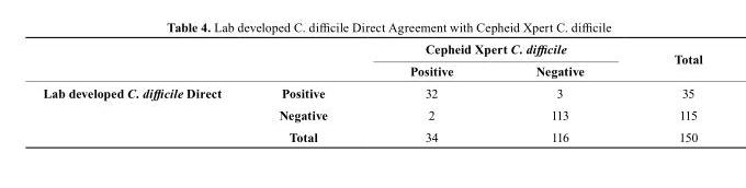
<table><thead><tr><td rowspan="2"></td><td rowspan="2"></td><td colspan="2">cepheid Xpert C. difficile</td><td rowspan="2">total</td></tr><tr><td>Positive</td><td>Negative</td></tr></thead><tbody><tr><td rowspan="3">Lab developed C. difficile Direct</td><td>Positive</td><td>32</td><td>3</td><td>35</td></tr><tr><td>Negative</td><td>2</td><td>113</td><td>115</td></tr><tr><td>total</td><td>34</td><td>116</td><td>150</td></tr></tbody></table>